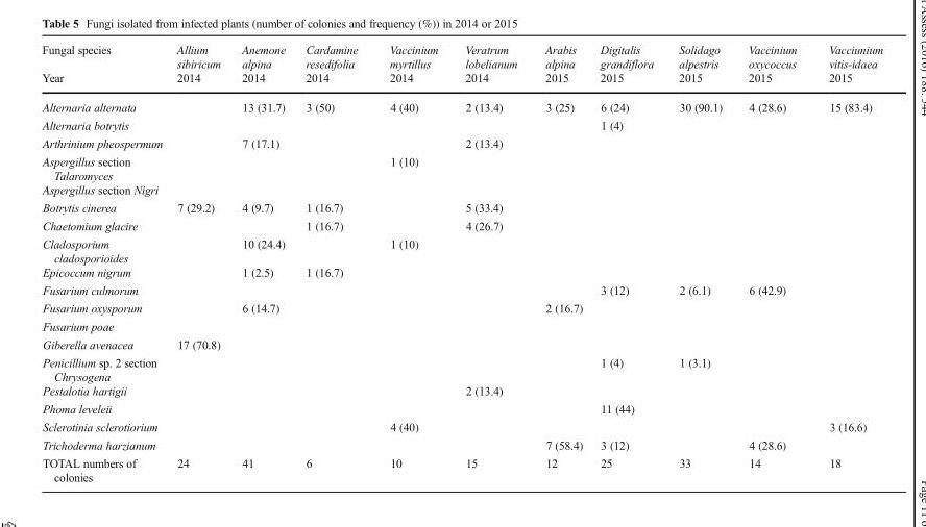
<table><thead><tr><td rowspan="2">Fungal species Year</td><td rowspan="2">Allium sibiricum 2014</td><td rowspan="2">Anemone alpina 2014</td><td rowspan="2">Cardamine resedifolia 2014</td><td rowspan="2">Vaccinium myrtillus 2014</td><td rowspan="2">Veratrum lobelianum 2014</td><td rowspan="2">Arabis alpina 2015</td><td rowspan="2">Digitalis grandiflora 2015</td><td rowspan="2">Solidago alpestris 2015</td><td rowspan="2">Vaccinium oxycoccus 2015</td><td rowspan="2">Vacciunium vitis-idaea 2015</td></tr><tr></tr></thead><tbody><tr><td>Alternaria alternata</td><td></td><td>13 (31.7)</td><td>3 (50)</td><td>4 (40)</td><td>2 (13.4)</td><td>3 (25)</td><td>6 (24)</td><td>30 (90.1)</td><td>4 (28.6)</td><td>15 (83.4)</td></tr><tr><td>Alternaria botrytis</td><td></td><td></td><td></td><td></td><td></td><td></td><td>1 (4)</td><td></td><td></td><td></td></tr><tr><td>Arthrinium pheospermum</td><td></td><td>7 (17.1)</td><td></td><td></td><td>2 (13.4)</td><td></td><td></td><td></td><td></td><td></td></tr><tr><td>Aspergillus section Talaromyces</td><td></td><td></td><td></td><td>1 (10)</td><td></td><td></td><td></td><td></td><td></td><td></td></tr><tr><td colspan="11">Aspergillus section Nigri</td></tr><tr><td>Botrytis cinerea</td><td>7 (29.2)</td><td>4 (9.7)</td><td>1 (16.7)</td><td></td><td>5 (33.4)</td><td></td><td></td><td></td><td></td><td></td></tr><tr><td>Chaetomium glacire</td><td></td><td></td><td>1 (16.7)</td><td></td><td>4 (26.7)</td><td></td><td></td><td></td><td></td><td></td></tr><tr><td>Cladosporium cladosporioides</td><td></td><td>10 (24.4)</td><td></td><td>1 (10)</td><td></td><td></td><td></td><td></td><td></td><td></td></tr><tr><td>Epicoccum nigrum</td><td></td><td>1 (2.5)</td><td>1 (16.7)</td><td></td><td></td><td></td><td></td><td></td><td></td><td></td></tr><tr><td>Fusarium culmorum</td><td></td><td></td><td></td><td></td><td></td><td></td><td>3 (12)</td><td>2 (6.1)</td><td>6 (42.9)</td><td></td></tr><tr><td>Fusarium oxysporum</td><td></td><td>6 (14.7)</td><td></td><td></td><td></td><td>2 (16.7)</td><td></td><td></td><td></td><td></td></tr><tr><td colspan="11">Fusarium poae</td></tr><tr><td>Giberella avenacea</td><td>17 (70.8)</td><td></td><td></td><td></td><td></td><td></td><td></td><td></td><td></td><td></td></tr><tr><td>Penicillium sp. 2 section Chrysogena</td><td></td><td></td><td></td><td></td><td></td><td></td><td>1 (4)</td><td>1 (3.1)</td><td></td><td></td></tr><tr><td>Pestalotia hartigii</td><td></td><td></td><td></td><td></td><td>2 (13.4)</td><td></td><td></td><td></td><td></td><td></td></tr><tr><td>Phoma leveleii</td><td></td><td></td><td></td><td></td><td></td><td></td><td>11 (44)</td><td></td><td></td><td></td></tr><tr><td>Sclerotinia sclerotiorium</td><td></td><td></td><td></td><td>4 (40)</td><td></td><td></td><td></td><td></td><td></td><td>3 (16.6)</td></tr><tr><td>Trichoderma harzianum</td><td></td><td></td><td></td><td></td><td></td><td>7 (58.4)</td><td>3 (12)</td><td></td><td>4 (28.6)</td><td></td></tr><tr><td>TOTAL numbers of colonies</td><td>24</td><td>41</td><td>6</td><td>10</td><td>15</td><td>12</td><td>25</td><td>33</td><td>14</td><td>18</td></tr></tbody></table>